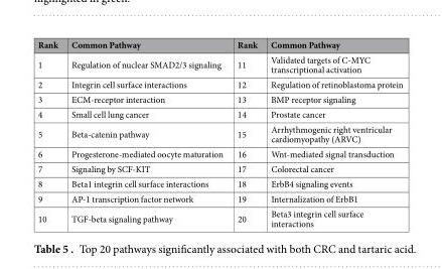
<table><thead><tr><td>Rank</td><td>Common Pathway</td><td>Rank</td><td>Common Pathway</td></tr></thead><tbody><tr><td>1</td><td>Regulation of nuclear SMAD2/3 signaling</td><td>11</td><td>Validated targets of C-MYC transcriptional activation</td></tr><tr><td>2</td><td>Integrin cell surface interactions</td><td>12</td><td>Regulation of retinoblastoma protein</td></tr><tr><td>3</td><td>ECM-receptor interaction</td><td>13</td><td>BMP receptor signaling</td></tr><tr><td>4</td><td>Small cell lung cancer</td><td>14</td><td>Prostate cancer</td></tr><tr><td>5</td><td>Beta-catenin pathway</td><td>15</td><td>Arrhythmogenic right ventricular cardiomyopathy (ARVC)</td></tr><tr><td>6</td><td>Progesterone-mediated oocyte maturation</td><td>16</td><td>Wnt-mediated signal transduction</td></tr><tr><td>7</td><td>Signaling by SCF-KIT</td><td>17</td><td>Colorectal cancer</td></tr><tr><td>8</td><td>Beta1 integrin cell surface interactions</td><td>18</td><td>ErbB4 signaling events</td></tr><tr><td>9</td><td>AP-1 transcription factor network</td><td>19</td><td>Internalization of ErbB1</td></tr><tr><td>10</td><td>TGF-beta signaling pathway</td><td>20</td><td>Beta3 integrin cell surface interactions</td></tr></tbody></table>